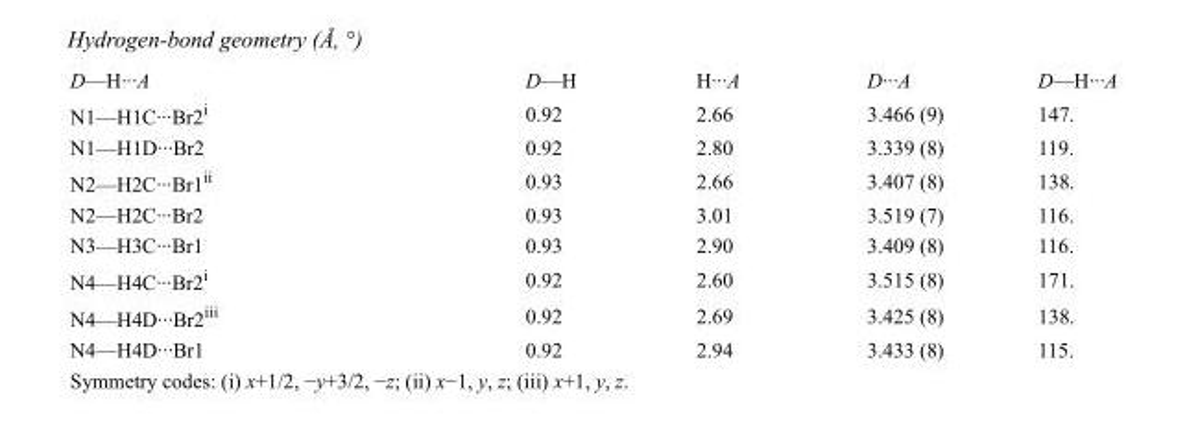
<table><tbody><tr><td>D—H···A</td><td>D—H</td><td>H···A</td><td>D···A</td><td>D—H···A</td></tr><tr><td>N1—H1C···Br2<sup>i</sup></td><td>0.92</td><td>2.66</td><td>3.466 (9)</td><td>147.</td></tr><tr><td>N1—H1D···Br2</td><td>0.92</td><td>2.80</td><td>3.339 (8)</td><td>119.</td></tr><tr><td>N2—H2C···Br1<sup>ii</sup></td><td>0.93</td><td>2.66</td><td>3.407 (8)</td><td>138.</td></tr><tr><td>N2—H2C···Br2</td><td>0.93</td><td>3.01</td><td>3.519 (7)</td><td>116.</td></tr><tr><td>N3—H3C···Br1</td><td>0.93</td><td>2.90</td><td>3.409 (8)</td><td>116.</td></tr><tr><td>N4—H4C···Br2<sup>i</sup></td><td>0.92</td><td>2.60</td><td>3.515 (8)</td><td>171.</td></tr><tr><td>N4—H4D···Br2<sup>iii</sup></td><td>0.92</td><td>2.69</td><td>3.425 (8)</td><td>138.</td></tr><tr><td>N4—H4D···Br1</td><td>0.92</td><td>2.94</td><td>3.433 (8)</td><td>115.</td></tr></tbody></table>